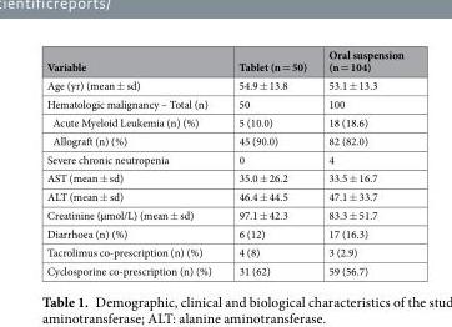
<table><thead><tr><td>Variable</td><td>Tablet (n = 50)</td><td>Oral suspension (n = 104)</td></tr></thead><tbody><tr><td>Age (yr) (mean ± sd)</td><td>54.9 ± 13.8</td><td>53.1 ± 13.3</td></tr><tr><td>Hematologic malignancy – Total (n)</td><td>50</td><td>100</td></tr><tr><td>Acute Myeloid Leukemia (n) (%)</td><td>5 (10.0)</td><td>18 (18.6)</td></tr><tr><td>Allograft (n) (%)</td><td>45 (90.0)</td><td>82 (82.0)</td></tr><tr><td>Severe chronic neutropenia</td><td>0</td><td>4</td></tr><tr><td>AST (mean ± sd)</td><td>35.0 ± 26.2</td><td>33.5 ± 16.7</td></tr><tr><td>ALT (mean ± sd)</td><td>46.4 ± 44.5</td><td>47.1 ± 33.7</td></tr><tr><td>Creatinine (µmol/L) (mean ± sd)</td><td>97.1 ± 42.3</td><td>83.3 ± 51.7</td></tr><tr><td>Diarrhoea (n) (%)</td><td>6 (12)</td><td>17 (16.3)</td></tr><tr><td>Tacrolimus co-prescription (n) (%)</td><td>4 (8)</td><td>3 (2.9)</td></tr><tr><td>Cyclosporine co-prescription (n) (%)</td><td>31 (62)</td><td>59 (56.7)</td></tr></tbody></table>